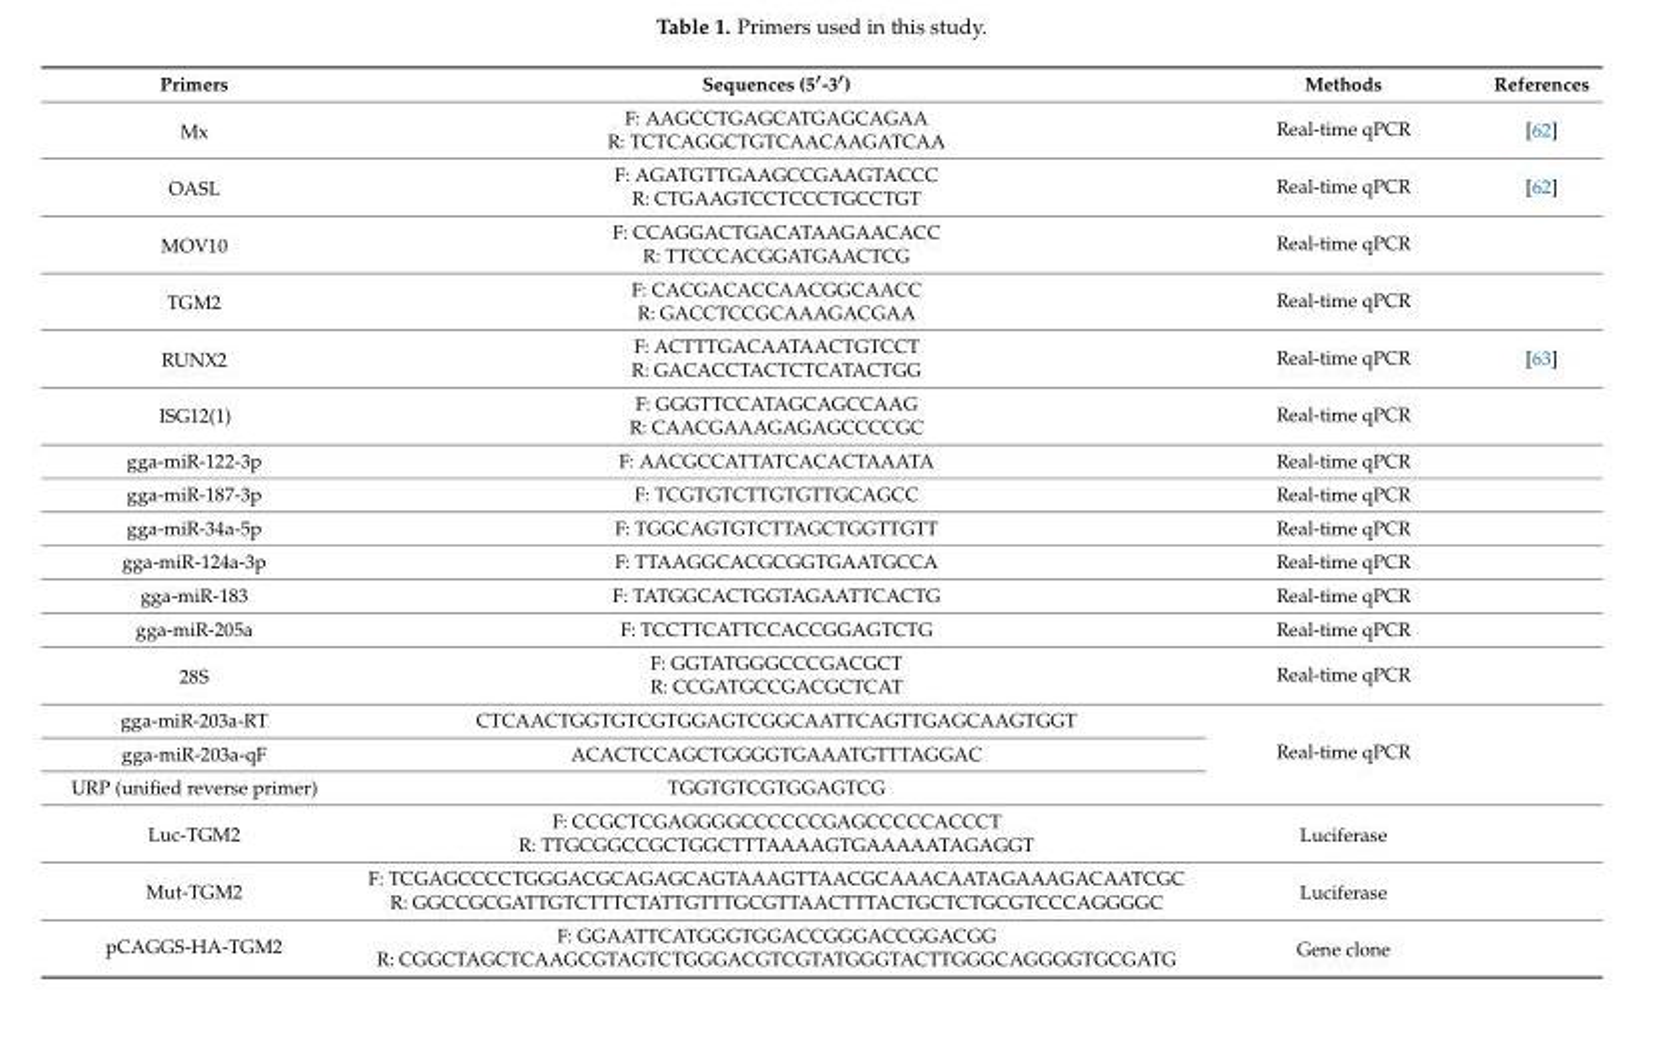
<table><thead><tr><td>Primers</td><td>Sequences (5′-3′)</td><td>Methods</td><td>References</td></tr></thead><tbody><tr><td rowspan="2">Mx</td><td>F: AAGCCTGAGCATGAGCAGAA</td><td rowspan="2">Real-time qPCR</td><td rowspan="2">[62]</td></tr><tr><td>R: TCTCAGGCTGTCAACAAGATCAA</td></tr><tr><td rowspan="2">OASL</td><td>F: AGATGTTGAAGCCGAAGTACCC</td><td rowspan="2">Real-time qPCR</td><td rowspan="2">[62]</td></tr><tr><td>R: CTGAAGTCCTCCCTGCCTGT</td></tr><tr><td rowspan="2">MOV10</td><td>F: CCAGGACTGACATAAGAACACC</td><td rowspan="2">Real-time qPCR</td><td rowspan="2"></td></tr><tr><td>R: TTCCCACGGATGAACTCG</td></tr><tr><td rowspan="2">TGM2</td><td>F: CACGACACCAACGGCAACC</td><td rowspan="2">Real-time qPCR</td><td rowspan="2"></td></tr><tr><td>R: GACCTCCGCAAAGACGAA</td></tr><tr><td rowspan="2">RUNX2</td><td>F: ACTTTGACAATAACTGTCCT</td><td rowspan="2">Real-time qPCR</td><td rowspan="2">[63]</td></tr><tr><td>R: GACACCTACTCTCATACTGG</td></tr><tr><td rowspan="2">ISG12(1)</td><td>F: GGGTTCCATAGCAGCCAAG</td><td rowspan="2">Real-time qPCR</td><td rowspan="2"></td></tr><tr><td>R: CAACGAAAGAGAGCCCCGC</td></tr><tr><td>gga-miR-122-3p</td><td>F: AACGCCATTATCACACTAAATA</td><td>Real-time qPCR</td><td></td></tr><tr><td>gga-miR-187-3p</td><td>F: TCGTGTCTTGTGTTGCAGCC</td><td>Real-time qPCR</td><td></td></tr><tr><td>gga-miR-34a-5p</td><td>F: TGGCAGTGTCTTAGCTGGTTGTT</td><td>Real-time qPCR</td><td></td></tr><tr><td>gga-miR-124a-3p</td><td>F: TTAAGGCACGCGGTGAATGCCA</td><td>Real-time qPCR</td><td></td></tr><tr><td>gga-miR-183</td><td>F: TATGGCACTGGTAGAATTCACTG</td><td>Real-time qPCR</td><td></td></tr><tr><td>gga-miR-205a</td><td>F: TCCTTCATTCCACCGGAGTCTG</td><td>Real-time qPCR</td><td></td></tr><tr><td rowspan="2">28S</td><td>F: GGTATGGGCCCGACGCT</td><td rowspan="2">Real-time qPCR</td><td rowspan="2"></td></tr><tr><td>R: CCGATGCCGACGCTCAT</td></tr><tr><td>gga-miR-203a-RT</td><td>CTCAACTGGTGTCGTGGAGTCGGCAATTCAGTTGAGCAAGTGGT</td><td rowspan="3">Real-time qPCR</td><td rowspan="3"></td></tr><tr><td>gga-miR-203a-qF</td><td>ACACTCCAGCTGGGGTGAAATGTTTAGGAC</td></tr><tr><td>URP (unified reverse primer)</td><td>TGGTGTCGTGGAGTCG</td></tr><tr><td rowspan="2">Luc-TGM2</td><td>F: CCGCTCGAGGGGCCCCCCGAGCCCCCACCCT</td><td rowspan="2">Luciferase</td><td rowspan="2"></td></tr><tr><td>R: TTGCGGCCGCTGGCTTTAAAAGTGAAAAATAGAGGT</td></tr><tr><td rowspan="2">Mut-TGM2</td><td>F: TCGAGCCCCTGGGACGCAGAGCAGTAAAGTTAACGCAAACAATAGAAAGACAATCGC</td><td rowspan="2">Luciferase</td><td rowspan="2"></td></tr><tr><td>R: GGCCGCGATTGTCTTTCTATTGTTTGCGTTAACTTTACTGCTCTGCGTCCCAGGGGC</td></tr><tr><td rowspan="2">pCAGGS-HA-TGM2</td><td>F: GGAATTCATGGGTGGACCGGGACCGGACGG</td><td rowspan="2">Gene clone</td><td rowspan="2"></td></tr><tr><td>R: CGGCTAGCTCAAGCGTAGTCTGGGACGTCGTATGGGTACTTGGGCAGGGGTGCGATG</td></tr></tbody></table>